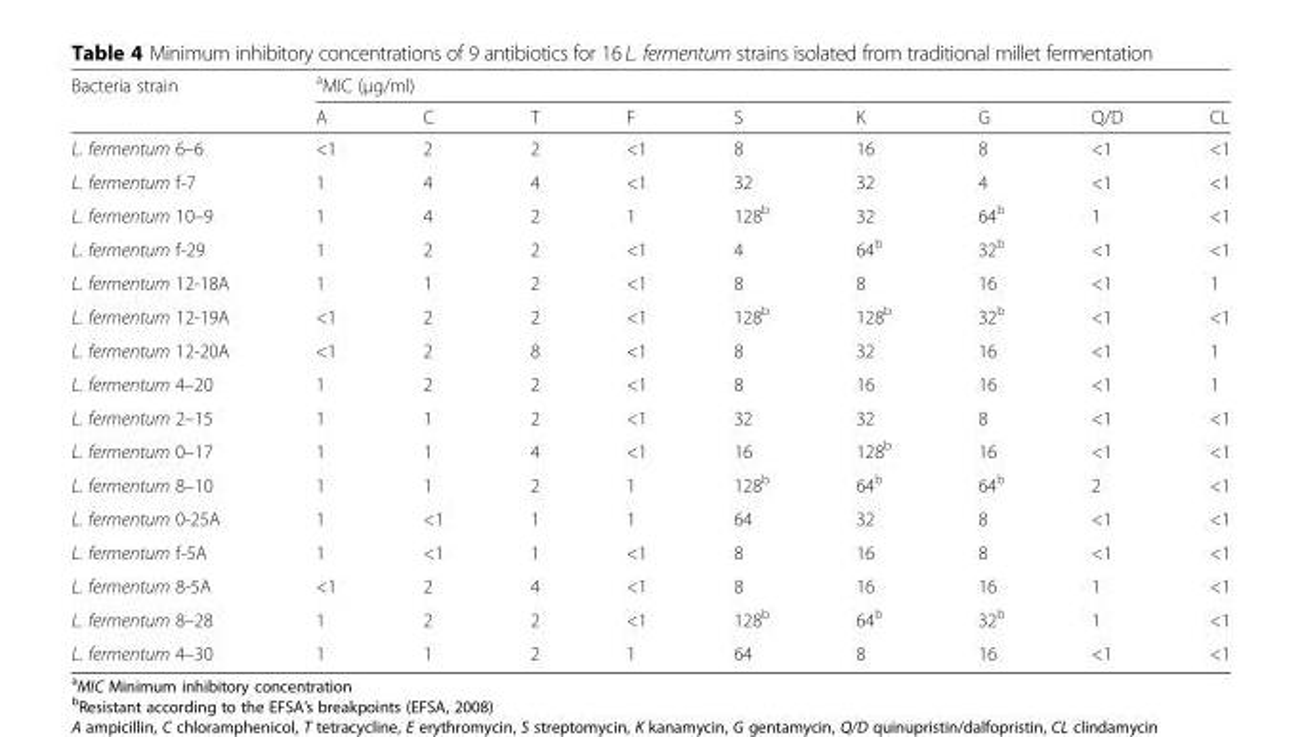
<table><thead><tr><td rowspan="2">Bacteria strain</td><td colspan="9"><sup>a</sup>MIC (μg/ml)</td></tr><tr><td>A</td><td>C</td><td>T</td><td>F</td><td>S</td><td>K</td><td>G</td><td>Q/D</td><td>CL</td></tr></thead><tbody><tr><td>L. fermentum 6–6</td><td>&lt;1</td><td>2</td><td>2</td><td>&lt;1</td><td>8</td><td>16</td><td>8</td><td>&lt;1</td><td>&lt;1</td></tr><tr><td>L. fermentum f-7</td><td>1</td><td>4</td><td>4</td><td>&lt;1</td><td>32</td><td>32</td><td>4</td><td>&lt;1</td><td>&lt;1</td></tr><tr><td>L. fermentum 10–9</td><td>1</td><td>4</td><td>2</td><td>1</td><td>128<sup>b</sup></td><td>32</td><td>64<sup>b</sup></td><td>1</td><td>&lt;1</td></tr><tr><td>L. fermentum f-29</td><td>1</td><td>2</td><td>2</td><td>&lt;1</td><td>4</td><td>64<sup>b</sup></td><td>32<sup>b</sup></td><td>&lt;1</td><td>&lt;1</td></tr><tr><td>L. fermentum 12-18A</td><td>1</td><td>1</td><td>2</td><td>&lt;1</td><td>8</td><td>8</td><td>16</td><td>&lt;1</td><td>1</td></tr><tr><td>L. fermentum 12-19A</td><td>&lt;1</td><td>2</td><td>2</td><td>&lt;1</td><td>128<sup>b</sup></td><td>128<sup>b</sup></td><td>32<sup>b</sup></td><td>&lt;1</td><td>&lt;1</td></tr><tr><td>L. fermentum 12-20A</td><td>&lt;1</td><td>2</td><td>8</td><td>&lt;1</td><td>8</td><td>32</td><td>16</td><td>&lt;1</td><td>1</td></tr><tr><td>L. fermentum 4–20</td><td>1</td><td>2</td><td>2</td><td>&lt;1</td><td>8</td><td>16</td><td>16</td><td>&lt;1</td><td>1</td></tr><tr><td>L. fermentum 2–15</td><td>1</td><td>1</td><td>2</td><td>&lt;1</td><td>32</td><td>32</td><td>8</td><td>&lt;1</td><td>&lt;1</td></tr><tr><td>L. fermentum 0–17</td><td>1</td><td>1</td><td>4</td><td>&lt;1</td><td>16</td><td>128<sup>b</sup></td><td>16</td><td>&lt;1</td><td>&lt;1</td></tr><tr><td>L. fermentum 8–10</td><td>1</td><td>1</td><td>2</td><td>1</td><td>128<sup>b</sup></td><td>64<sup>b</sup></td><td>64<sup>b</sup></td><td>2</td><td>&lt;1</td></tr><tr><td>L. fermentum 0-25A</td><td>1</td><td>&lt;1</td><td>1</td><td>1</td><td>64</td><td>32</td><td>8</td><td>&lt;1</td><td>&lt;1</td></tr><tr><td>L. fermentum f-5A</td><td>1</td><td>&lt;1</td><td>1</td><td>&lt;1</td><td>8</td><td>16</td><td>8</td><td>&lt;1</td><td>&lt;1</td></tr><tr><td>L. fermentum 8-5A</td><td>&lt;1</td><td>2</td><td>4</td><td>&lt;1</td><td>8</td><td>16</td><td>16</td><td>1</td><td>&lt;1</td></tr><tr><td>L. fermentum 8–28</td><td>1</td><td>2</td><td>2</td><td>&lt;1</td><td>128<sup>b</sup></td><td>64<sup>b</sup></td><td>32<sup>b</sup></td><td>1</td><td>&lt;1</td></tr><tr><td>L. fermentum 4–30</td><td>1</td><td>1</td><td>2</td><td>1</td><td>64</td><td>8</td><td>16</td><td>&lt;1</td><td>&lt;1</td></tr></tbody></table>